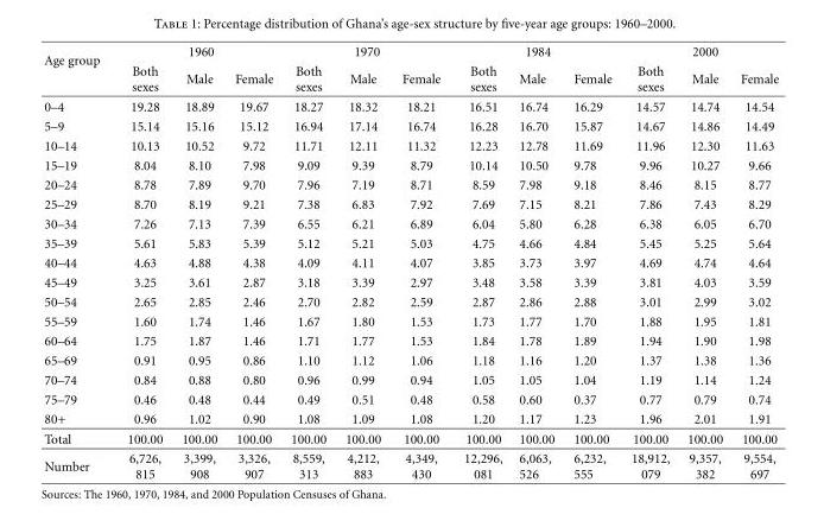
<table><thead><tr><td rowspan="2">Age group</td><td colspan="3">1960</td><td colspan="3">1970</td><td colspan="3">1984</td><td colspan="3">2000</td></tr><tr><td>Both sexes</td><td>Male</td><td>Female</td><td>Both sexes</td><td>Male</td><td>Female</td><td>Both sexes</td><td>Male</td><td>Female</td><td>Both sexes</td><td>Male</td><td>Female</td></tr></thead><tbody><tr><td>0–4</td><td>19.28</td><td>18.89</td><td>19.67</td><td>18.27</td><td>18.32</td><td>18.21</td><td>16.51</td><td>16.74</td><td>16.29</td><td>14.57</td><td>14.74</td><td>14.54</td></tr><tr><td>5–9</td><td>15.14</td><td>15.16</td><td>15.12</td><td>16.94</td><td>17.14</td><td>16.74</td><td>16.28</td><td>16.70</td><td>15.87</td><td>14.67</td><td>14.86</td><td>14.49</td></tr><tr><td>10–14</td><td>10.13</td><td>10.52</td><td>9.72</td><td>11.71</td><td>12.11</td><td>11.32</td><td>12.23</td><td>12.78</td><td>11.69</td><td>11.96</td><td>12.30</td><td>11.63</td></tr><tr><td>15–19</td><td>8.04</td><td>8.10</td><td>7.98</td><td>9.09</td><td>9.39</td><td>8.79</td><td>10.14</td><td>10.50</td><td>9.78</td><td>9.96</td><td>10.27</td><td>9.66</td></tr><tr><td>20–24</td><td>8.78</td><td>7.89</td><td>9.70</td><td>7.96</td><td>7.19</td><td>8.71</td><td>8.59</td><td>7.98</td><td>9.18</td><td>8.46</td><td>8.15</td><td>8.77</td></tr><tr><td>25–29</td><td>8.70</td><td>8.19</td><td>9.21</td><td>7.38</td><td>6.83</td><td>7.92</td><td>7.69</td><td>7.15</td><td>8.21</td><td>7.86</td><td>7.43</td><td>8.29</td></tr><tr><td>30–34</td><td>7.26</td><td>7.13</td><td>7.39</td><td>6.55</td><td>6.21</td><td>6.89</td><td>6.04</td><td>5.80</td><td>6.28</td><td>6.38</td><td>6.05</td><td>6.70</td></tr><tr><td>35–39</td><td>5.61</td><td>5.83</td><td>5.39</td><td>5.12</td><td>5.21</td><td>5.03</td><td>4.75</td><td>4.66</td><td>4.84</td><td>5.45</td><td>5.25</td><td>5.64</td></tr><tr><td>40–44</td><td>4.63</td><td>4.88</td><td>4.38</td><td>4.09</td><td>4.11</td><td>4.07</td><td>3.85</td><td>3.73</td><td>3.97</td><td>4.69</td><td>4.74</td><td>4.64</td></tr><tr><td>45–49</td><td>3.25</td><td>3.61</td><td>2.87</td><td>3.18</td><td>3.39</td><td>2.97</td><td>3.48</td><td>3.58</td><td>3.39</td><td>3.81</td><td>4.03</td><td>3.59</td></tr><tr><td>50–54</td><td>2.65</td><td>2.85</td><td>2.46</td><td>2.70</td><td>2.82</td><td>2.59</td><td>2.87</td><td>2.86</td><td>2.88</td><td>3.01</td><td>2.99</td><td>3.02</td></tr><tr><td>55–59</td><td>1.60</td><td>1.74</td><td>1.46</td><td>1.67</td><td>1.80</td><td>1.53</td><td>1.73</td><td>1.77</td><td>1.70</td><td>1.88</td><td>1.95</td><td>1.81</td></tr><tr><td>60–64</td><td>1.75</td><td>1.87</td><td>1.46</td><td>1.71</td><td>1.77</td><td>1.53</td><td>1.84</td><td>1.78</td><td>1.89</td><td>1.94</td><td>1.90</td><td>1.98</td></tr><tr><td>65–69</td><td>0.91</td><td>0.95</td><td>0.86</td><td>1.10</td><td>1.12</td><td>1.06</td><td>1.18</td><td>1.16</td><td>1.20</td><td>1.37</td><td>1.38</td><td>1.36</td></tr><tr><td>70–74</td><td>0.84</td><td>0.88</td><td>0.80</td><td>0.96</td><td>0.99</td><td>0.94</td><td>1.05</td><td>1.05</td><td>1.04</td><td>1.19</td><td>1.14</td><td>1.24</td></tr><tr><td>75–79</td><td>0.46</td><td>0.48</td><td>0.44</td><td>0.49</td><td>0.51</td><td>0.48</td><td>0.58</td><td>0.60</td><td>0.37</td><td>0.77</td><td>0.79</td><td>0.74</td></tr><tr><td>80+</td><td>0.96</td><td>1.02</td><td>0.90</td><td>1.08</td><td>1.09</td><td>1.08</td><td>1.20</td><td>1.17</td><td>1.23</td><td>1.96</td><td>2.01</td><td>1.91</td></tr><tr><td>Total</td><td>100.00</td><td>100.00</td><td>100.00</td><td>100.00</td><td>100.00</td><td>100.00</td><td>100.00</td><td>100.00</td><td>100.00</td><td>100.00</td><td>100.00</td><td>100.00</td></tr><tr><td>Number</td><td>6,726, 815</td><td>3,399, 908</td><td>3,326, 907</td><td>8,559, 313</td><td>4,212, 883</td><td>4,349, 430</td><td>12,296, 081</td><td>6,063, 526</td><td>6,232, 555</td><td>18,912, 079</td><td>9,357, 382</td><td>9,554, 697</td></tr></tbody></table>